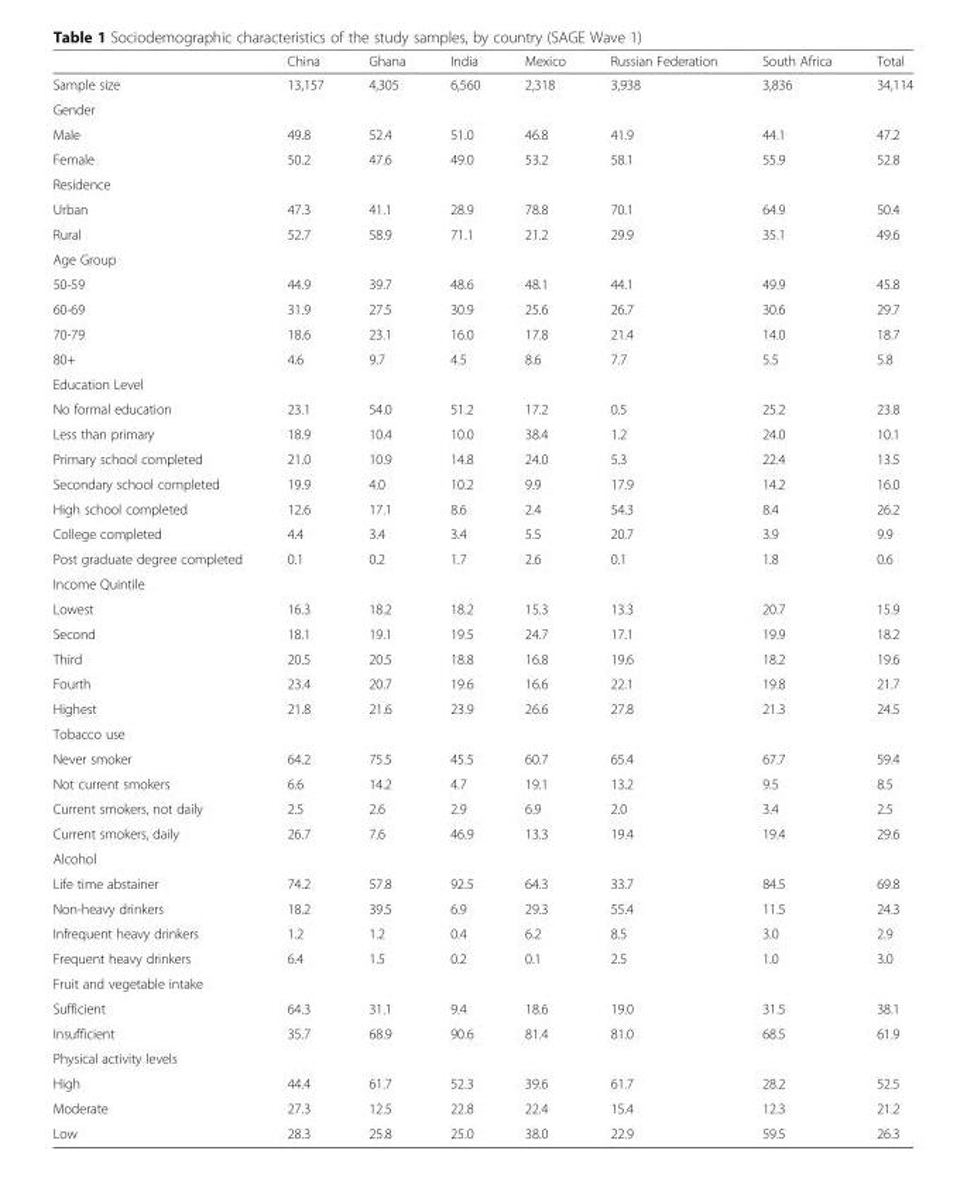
<table><thead><tr><td></td><td>China</td><td>Ghana</td><td>India</td><td>Mexico</td><td>Russian Federation</td><td>South Africa</td><td>Total</td></tr></thead><tbody><tr><td>Sample size</td><td>13,157</td><td>4,305</td><td>6,560</td><td>2,318</td><td>3,938</td><td>3,836</td><td>34,114</td></tr><tr><td colspan="8">Gender</td></tr><tr><td>Male</td><td>49.8</td><td>52.4</td><td>51.0</td><td>46.8</td><td>41.9</td><td>44.1</td><td>47.2</td></tr><tr><td>Female</td><td>50.2</td><td>47.6</td><td>49.0</td><td>53.2</td><td>58.1</td><td>55.9</td><td>52.8</td></tr><tr><td colspan="8">Residence</td></tr><tr><td>Urban</td><td>47.3</td><td>41.1</td><td>28.9</td><td>78.8</td><td>70.1</td><td>64.9</td><td>50.4</td></tr><tr><td>Rural</td><td>52.7</td><td>58.9</td><td>71.1</td><td>21.2</td><td>29.9</td><td>35.1</td><td>49.6</td></tr><tr><td colspan="8">Age Group</td></tr><tr><td>50-59</td><td>44.9</td><td>39.7</td><td>48.6</td><td>48.1</td><td>44.1</td><td>49.9</td><td>45.8</td></tr><tr><td>60-69</td><td>31.9</td><td>27.5</td><td>30.9</td><td>25.6</td><td>26.7</td><td>30.6</td><td>29.7</td></tr><tr><td>70-79</td><td>18.6</td><td>23.1</td><td>16.0</td><td>17.8</td><td>21.4</td><td>14.0</td><td>18.7</td></tr><tr><td>80+</td><td>4.6</td><td>9.7</td><td>4.5</td><td>8.6</td><td>7.7</td><td>5.5</td><td>5.8</td></tr><tr><td colspan="8">Education Level</td></tr><tr><td>No formal education</td><td>23.1</td><td>54.0</td><td>51.2</td><td>17.2</td><td>0.5</td><td>25.2</td><td>23.8</td></tr><tr><td>Less than primary</td><td>18.9</td><td>10.4</td><td>10.0</td><td>38.4</td><td>1.2</td><td>24.0</td><td>10.1</td></tr><tr><td>Primary school completed</td><td>21.0</td><td>10.9</td><td>14.8</td><td>24.0</td><td>5.3</td><td>22.4</td><td>13.5</td></tr><tr><td>Secondary school completed</td><td>19.9</td><td>4.0</td><td>10.2</td><td>9.9</td><td>17.9</td><td>14.2</td><td>16.0</td></tr><tr><td>High school completed</td><td>12.6</td><td>17.1</td><td>8.6</td><td>2.4</td><td>54.3</td><td>8.4</td><td>26.2</td></tr><tr><td>College completed</td><td>4.4</td><td>3.4</td><td>3.4</td><td>5.5</td><td>20.7</td><td>3.9</td><td>9.9</td></tr><tr><td>Post graduate degree completed</td><td>0.1</td><td>0.2</td><td>1.7</td><td>2.6</td><td>0.1</td><td>1.8</td><td>0.6</td></tr><tr><td colspan="8">Income Quintile</td></tr><tr><td>Lowest</td><td>16.3</td><td>18.2</td><td>18.2</td><td>15.3</td><td>13.3</td><td>20.7</td><td>15.9</td></tr><tr><td>Second</td><td>18.1</td><td>19.1</td><td>19.5</td><td>24.7</td><td>17.1</td><td>19.9</td><td>18.2</td></tr><tr><td>Third</td><td>20.5</td><td>20.5</td><td>18.8</td><td>16.8</td><td>19.6</td><td>18.2</td><td>19.6</td></tr><tr><td>Fourth</td><td>23.4</td><td>20.7</td><td>19.6</td><td>16.6</td><td>22.1</td><td>19.8</td><td>21.7</td></tr><tr><td>Highest</td><td>21.8</td><td>21.6</td><td>23.9</td><td>26.6</td><td>27.8</td><td>21.3</td><td>24.5</td></tr><tr><td colspan="8">Tobacco use</td></tr><tr><td>Never smoker</td><td>64.2</td><td>75.5</td><td>45.5</td><td>60.7</td><td>65.4</td><td>67.7</td><td>59.4</td></tr><tr><td>Not current smokers</td><td>6.6</td><td>14.2</td><td>4.7</td><td>19.1</td><td>13.2</td><td>9.5</td><td>8.5</td></tr><tr><td>Current smokers, not daily</td><td>2.5</td><td>2.6</td><td>2.9</td><td>6.9</td><td>2.0</td><td>3.4</td><td>2.5</td></tr><tr><td>Current smokers, daily</td><td>26.7</td><td>7.6</td><td>46.9</td><td>13.3</td><td>19.4</td><td>19.4</td><td>29.6</td></tr><tr><td colspan="8">Alcohol</td></tr><tr><td>Life time abstainer</td><td>74.2</td><td>57.8</td><td>92.5</td><td>64.3</td><td>33.7</td><td>84.5</td><td>69.8</td></tr><tr><td>Non-heavy drinkers</td><td>18.2</td><td>39.5</td><td>6.9</td><td>29.3</td><td>55.4</td><td>11.5</td><td>24.3</td></tr><tr><td>Infrequent heavy drinkers</td><td>1.2</td><td>1.2</td><td>0.4</td><td>6.2</td><td>8.5</td><td>3.0</td><td>2.9</td></tr><tr><td>Frequent heavy drinkers</td><td>6.4</td><td>1.5</td><td>0.2</td><td>0.1</td><td>2.5</td><td>1.0</td><td>3.0</td></tr><tr><td colspan="8">Fruit and vegetable intake</td></tr><tr><td>Sufficient</td><td>64.3</td><td>31.1</td><td>9.4</td><td>18.6</td><td>19.0</td><td>31.5</td><td>38.1</td></tr><tr><td>Insufficient</td><td>35.7</td><td>68.9</td><td>90.6</td><td>81.4</td><td>81.0</td><td>68.5</td><td>61.9</td></tr><tr><td colspan="8">Physical activity levels</td></tr><tr><td>High</td><td>44.4</td><td>61.7</td><td>52.3</td><td>39.6</td><td>61.7</td><td>28.2</td><td>52.5</td></tr><tr><td>Moderate</td><td>27.3</td><td>12.5</td><td>22.8</td><td>22.4</td><td>15.4</td><td>12.3</td><td>21.2</td></tr><tr><td>Low</td><td>28.3</td><td>25.8</td><td>25.0</td><td>38.0</td><td>22.9</td><td>59.5</td><td>26.3</td></tr></tbody></table>